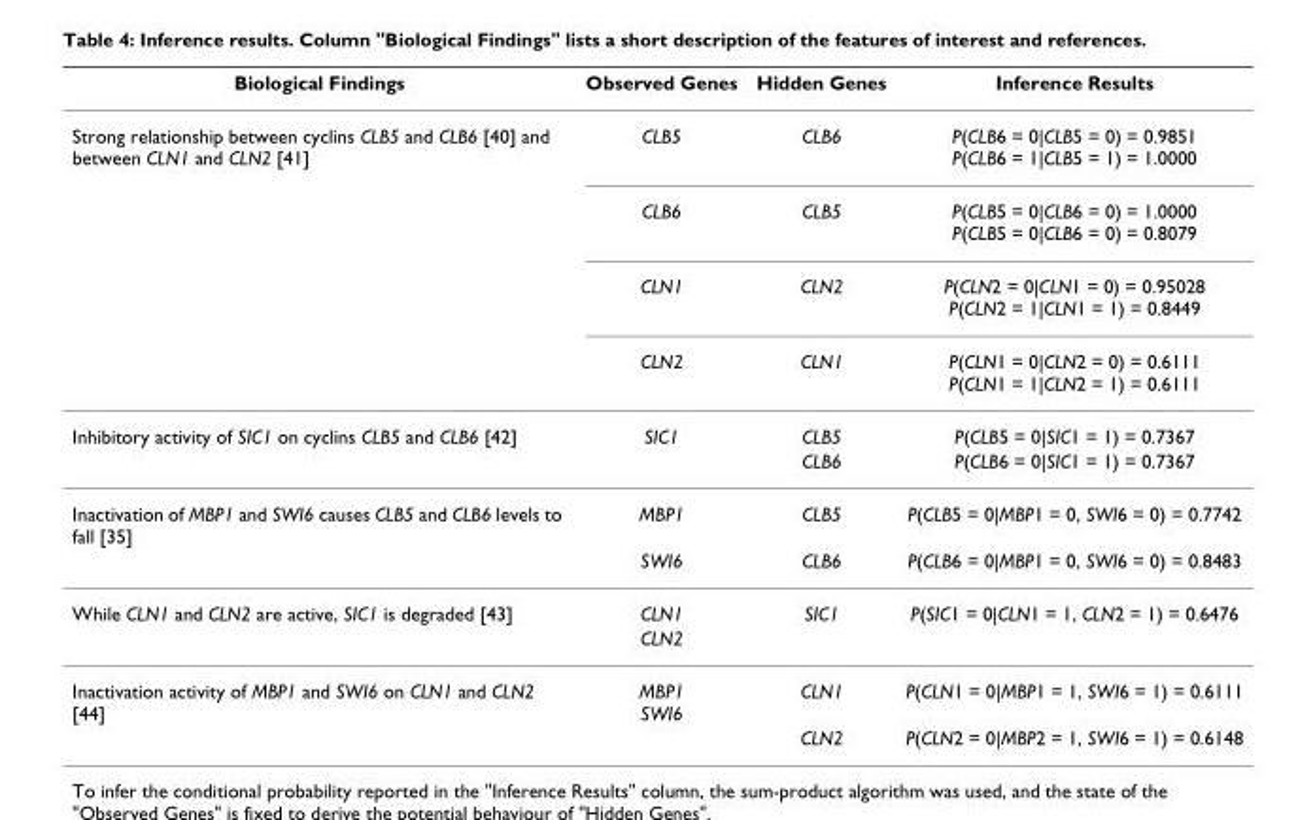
<table><thead><tr><td>Biological Findings</td><td>Observed Genes</td><td>Hidden Genes</td><td>Inference Results</td></tr></thead><tbody><tr><td rowspan="4">Strong relationship between cyclins CLB5 and CLB6 [40] and between CLN1 and CLN2 [41]</td><td>CLB5</td><td>CLB6</td><td>P(CLB6 = 0|CLB5 = 0) = 0.9851 P(CLB6 = 1|CLB5 = 1) = 1.0000</td></tr><tr><td>CLB6</td><td>CLB5</td><td>P(CLB5 = 0|CLB6 = 0) = 1.0000 P(CLB5 = 0|CLB6 = 0) = 0.8079</td></tr><tr><td>CLN1</td><td>CLN2</td><td>P(CLN2 = 0|CLN1 = 0) = 0.95028 P(CLN2 = 1|CLN1 = 1) = 0.8449</td></tr><tr><td>CLN2</td><td>CLN1</td><td>P(CLN1 = 0|CLN2 = 0) = 0.6111 P(CLN1 = 1|CLN2 = 1) = 0.6111</td></tr><tr><td rowspan="2">Inhibitory activity of SIC1 on cyclins CLB5 and CLB6 [42]</td><td>SIC1</td><td>CLB5</td><td>P(CLB5 = 0|SIC1 = 1) = 0.7367</td></tr><tr><td></td><td>CLB6</td><td>P(CLB6 = 0|SIC1 = 1) = 0.7367</td></tr><tr><td rowspan="2">Inactivation of MBP1 and SWI6 causes CLB5 and CLB6 levels to fall [35]</td><td>MBP1</td><td>CLB5</td><td>P(CLB5 = 0|MBP1 = 0, SWI6 = 0) = 0.7742</td></tr><tr><td>SWI6</td><td>CLB6</td><td>P(CLB6 = 0|MBP1 = 0, SWI6 = 0) = 0.8483</td></tr><tr><td rowspan="2">While CLN1 and CLN2 are active, SIC1 is degraded [43]</td><td>CLN1</td><td>SIC1</td><td>P(SIC1 = 0|CLN1 = 1, CLN2 = 1) = 0.6476</td></tr><tr><td>CLN2</td><td></td><td></td></tr><tr><td rowspan="2">Inactivation activity of MBP1 and SWI6 on CLN1 and CLN2 [44]</td><td>MBP1 SWI6</td><td>CLN1</td><td>P(CLN1 = 0|MBP1 = 1, SWI6 = 1) = 0.6111</td></tr><tr><td></td><td>CLN2</td><td>P(CLN2 = 0|MBP2 = 1, SWI6 = 1) = 0.6148</td></tr></tbody></table>